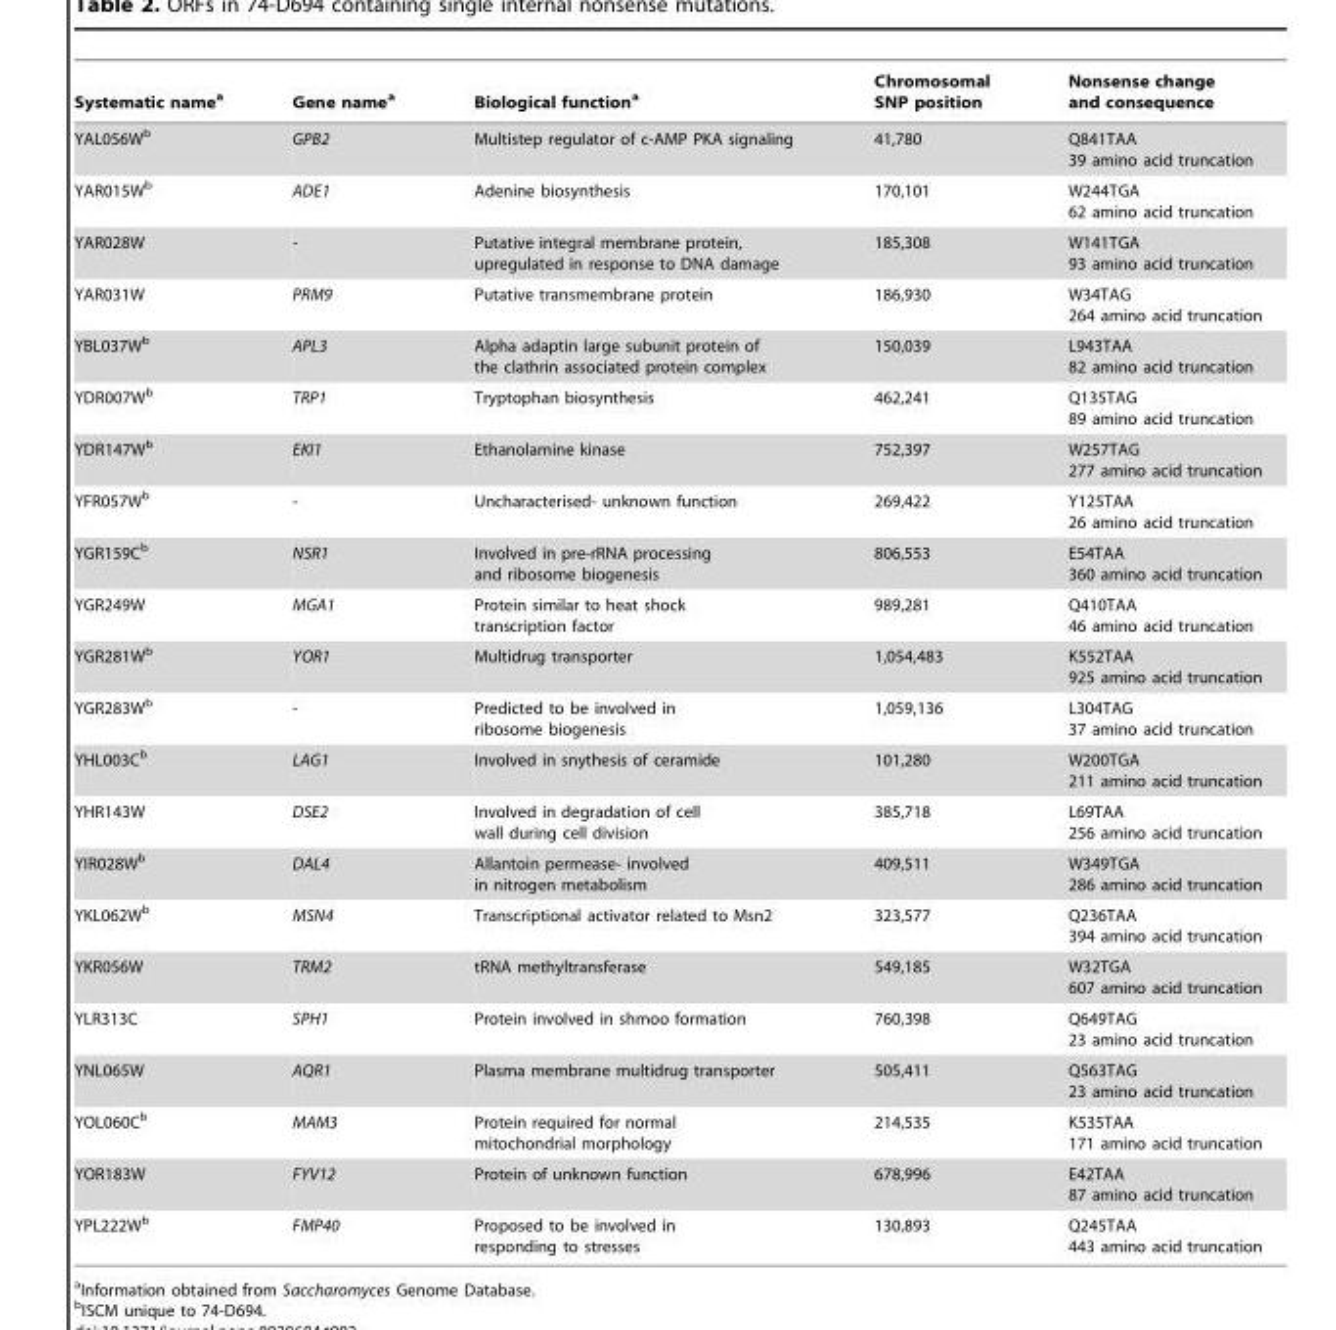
<table><thead><tr><td>Systematic name<sup>a</sup></td><td>Gene name<sup>a</sup></td><td>Biological function<sup>a</sup></td><td>Chromosomal SNP position</td><td>Nonsense change and consequence</td></tr></thead><tbody><tr><td>YAL056W<sup>b</sup></td><td>GPB2</td><td>Multistep regulator of c-AMP PKA signaling</td><td>41,780</td><td>Q841TAA 39 amino acid truncation</td></tr><tr><td>YAR015W<sup>b</sup></td><td>ADE1</td><td>Adenine biosynthesis</td><td>170,101</td><td>W244TGA 62 amino acid truncation</td></tr><tr><td>YAR028W</td><td>-</td><td>Putative integral membrane protein, upregulated in response to DNA damage</td><td>185,308</td><td>W141TGA 93 amino acid truncation</td></tr><tr><td>YAR031W</td><td>PRM9</td><td>Putative transmembrane protein</td><td>186,930</td><td>W34TAG 264 amino acid truncation</td></tr><tr><td>YBL037W<sup>b</sup></td><td>APL3</td><td>Alpha adaptin large subunit protein of the clathrin associated protein complex</td><td>150,039</td><td>L943TAA 82 amino acid truncation</td></tr><tr><td>YDR007W<sup>b</sup></td><td>TRP1</td><td>Tryptophan biosynthesis</td><td>462,241</td><td>Q135TAG 89 amino acid truncation</td></tr><tr><td>YDR147W<sup>b</sup></td><td>EKI1</td><td>Ethanolamine kinase</td><td>752,397</td><td>W257TAG 277 amino acid truncation</td></tr><tr><td>YFR057W<sup>b</sup></td><td>-</td><td>Uncharacterised- unknown function</td><td>269,422</td><td>Y125TAA 26 amino acid truncation</td></tr><tr><td>YGR159C<sup>b</sup></td><td>NSR1</td><td>Involved in pre-rRNA processing and ribosome biogenesis</td><td>806,553</td><td>E54TAA 360 amino acid truncation</td></tr><tr><td>YGR249W</td><td>MGA1</td><td>Protein similar to heat shock transcription factor</td><td>989,281</td><td>Q410TAA 46 amino acid truncation</td></tr><tr><td>YGR281W<sup>b</sup></td><td>YOR1</td><td>Multidrug transporter</td><td>1,054,483</td><td>K552TAA 925 amino acid truncation</td></tr><tr><td>YGR283W<sup>b</sup></td><td>-</td><td>Predicted to be involved in ribosome biogenesis</td><td>1,059,136</td><td>L304TAG 37 amino acid truncation</td></tr><tr><td>YHL003C<sup>b</sup></td><td>LAG1</td><td>Involved in snythesis of ceramide</td><td>101,280</td><td>W200TGA 211 amino acid truncation</td></tr><tr><td>YHR143W</td><td>DSE2</td><td>Involved in degradation of cell wall during cell division</td><td>385,718</td><td>L69TAA 256 amino acid truncation</td></tr><tr><td>YIR028W<sup>b</sup></td><td>DAL4</td><td>Allantoin permease- involved in nitrogen metabolism</td><td>409,511</td><td>W349TGA 286 amino acid truncation</td></tr><tr><td>YKL062W<sup>b</sup></td><td>MSN4</td><td>Transcriptional activator related to Msn2</td><td>323,577</td><td>Q236TAA 394 amino acid truncation</td></tr><tr><td>YKR056W</td><td>TRM2</td><td>tRNA methyltransferase</td><td>549,185</td><td>W32TGA 607 amino acid truncation</td></tr><tr><td>YLR313C</td><td>SPH1</td><td>Protein involved in shmoo formation</td><td>760,398</td><td>Q649TAG 23 amino acid truncation</td></tr><tr><td>YNL065W</td><td>AQR1</td><td>Plasma membrane multidrug transporter</td><td>505,411</td><td>Q563TAG 23 amino acid truncation</td></tr><tr><td>YOL060C<sup>b</sup></td><td>MAM3</td><td>Protein required for normal mitochondrial morphology</td><td>214,535</td><td>K535TAA 171 amino acid truncation</td></tr><tr><td>YOR183W</td><td>FYV12</td><td>Protein of unknown function</td><td>678,996</td><td>E42TAA 87 amino acid truncation</td></tr><tr><td>YPL222W<sup>b</sup></td><td>FMP40</td><td>Proposed to be involved in responding to stresses</td><td>130,893</td><td>Q245TAA 443 amino acid truncation</td></tr></tbody></table>